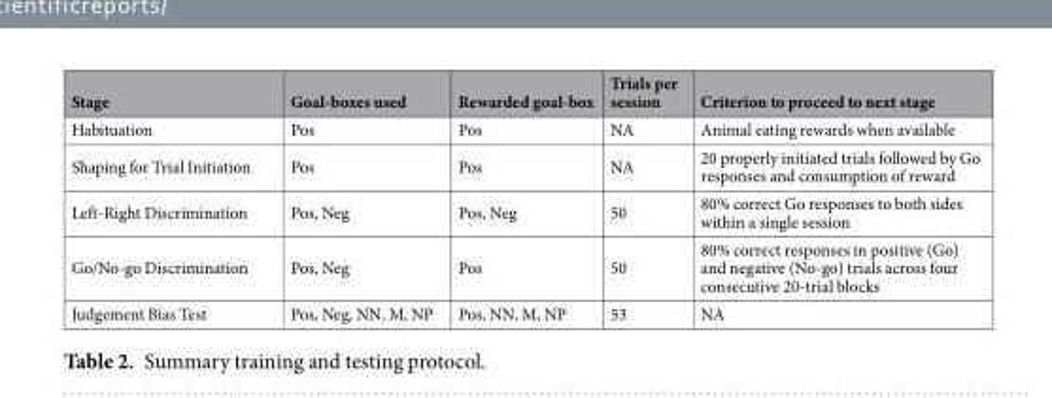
<table><thead><tr><td>Stage</td><td>Goal-boxes used</td><td>Rewarded goal-box</td><td>Trials per session</td><td>Criterion to proceed to next stage</td></tr></thead><tbody><tr><td>Habituation</td><td>Pos</td><td>Pos</td><td>NA</td><td>Animal eating rewards when available</td></tr><tr><td>Shaping for Trial Initiation</td><td>Pos</td><td>Pos</td><td>NA</td><td>20 properly initiated trials followed by Go responses and consumption of reward</td></tr><tr><td>Left-Right Discrimination</td><td>Pos, Neg</td><td>Pos, Neg</td><td>50</td><td>80% correct Go responses to both sides within a single session</td></tr><tr><td>Go/No-go Discrimination</td><td>Pos, Neg</td><td>Pos</td><td>50</td><td>80% correct responses in positive (Go) and negative (No-go) trials across four consecutive 20-trial blocks</td></tr><tr><td>Judgement Bias Test</td><td>Pos, Neg, NN, M, NP</td><td>Pos, NN, M, NP</td><td>53</td><td>NA</td></tr></tbody></table>